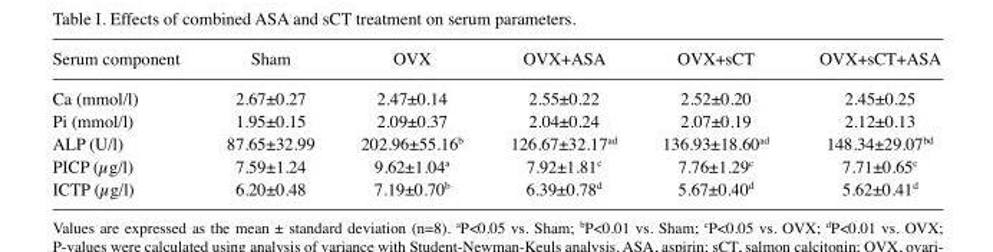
<table><thead><tr><td>Serum component</td><td>Sham</td><td>OVX</td><td>OVX+ASA</td><td>OVX+sCT</td><td>OVX+sCT+ASA</td></tr></thead><tbody><tr><td>Ca (mmol/l)</td><td>2.67±0.27</td><td>2.47±0.14</td><td>2.55±0.22</td><td>2.52±0.20</td><td>2.45±0.25</td></tr><tr><td>Pi (mmol/l)</td><td>1.95±0.15</td><td>2.09±0.37</td><td>2.04±0.24</td><td>2.07±0.19</td><td>2.12±0.13</td></tr><tr><td>ALP (U/l)</td><td>87.65±32.99</td><td>202.96±55.16<sup>b</sup></td><td>126.67±32.17<sup>ad</sup></td><td>136.93±18.60<sup>ad</sup></td><td>148.34±29.07<sup>bd</sup></td></tr><tr><td>PICP (µg/l)</td><td>7.59±1.24</td><td>9.62±1.04<sup>a</sup></td><td>7.92±1.81<sup>c</sup></td><td>7.76±1.29<sup>c</sup></td><td>7.71±0.65<sup>c</sup></td></tr><tr><td>ICTP (µg/l)</td><td>6.20±0.48</td><td>7.19±0.70<sup>b</sup></td><td>6.39±0.78<sup>d</sup></td><td>5.67±0.40<sup>d</sup></td><td>5.62±0.41<sup>d</sup></td></tr></tbody></table>